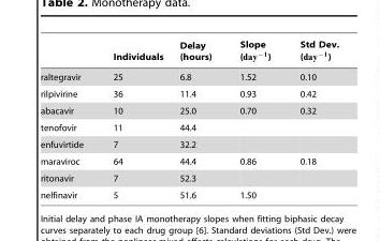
<table><thead><tr><td></td><td>Individuals</td><td>Delay (hours)</td><td>Slope (day{1)</td><td>Std Dev. (day{1)</td></tr></thead><tbody><tr><td>raltegravir</td><td>25</td><td>6.8</td><td>1.52</td><td>0.10</td></tr><tr><td>rilpivirine</td><td>36</td><td>11.4</td><td>0.93</td><td>0.42</td></tr><tr><td>abacavir</td><td>10</td><td>25.0</td><td>0.70</td><td>0.32</td></tr><tr><td>tenofovir</td><td>11</td><td>44.4</td><td></td><td></td></tr><tr><td>enfuvirtide</td><td>7</td><td>32.2</td><td></td><td></td></tr><tr><td>maraviroc</td><td>64</td><td>44.4</td><td>0.86</td><td>0.18</td></tr><tr><td>ritonavir</td><td>7</td><td>52.3</td><td></td><td></td></tr><tr><td>nelfinavir</td><td>5</td><td>51.6</td><td>1.50</td><td></td></tr></tbody></table>